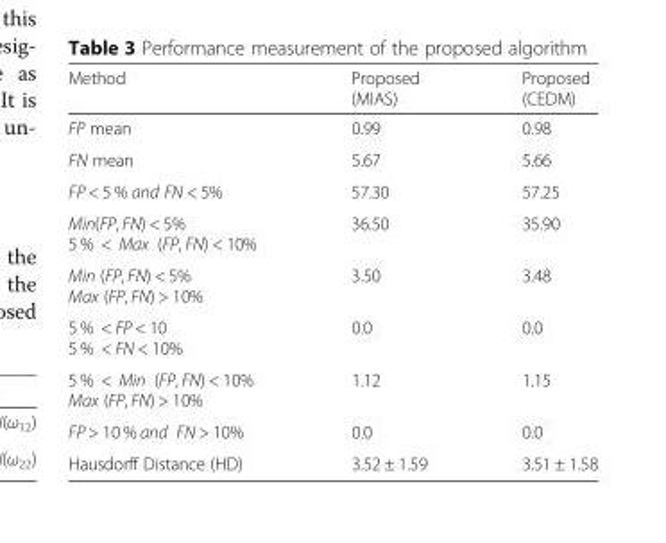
<table><thead><tr><td>Method</td><td>Proposed (MIAS)</td><td>Proposed (CEDM)</td></tr></thead><tbody><tr><td>FP mean</td><td>0.99</td><td>0.98</td></tr><tr><td>FN mean</td><td>5.67</td><td>5.66</td></tr><tr><td>FP &lt; 5 % and FN &lt; 5%</td><td>57.30</td><td>57.25</td></tr><tr><td>Min(FP, FN) &lt; 5% 5 % &lt; Max (FP, FN) &lt; 10%</td><td>36.50</td><td>35.90</td></tr><tr><td>Min (FP, FN) &lt; 5% Max (FP, FN) &gt; 10%</td><td>3.50</td><td>3.48</td></tr><tr><td>5 % &lt; FP &lt; 10 5 % &lt; FN &lt; 10%</td><td>0.0</td><td>0.0</td></tr><tr><td>5 % &lt; Min (FP, FN) &lt; 10% Max (FP, FN) &gt; 10%</td><td>1.12</td><td>1.15</td></tr><tr><td>FP &gt; 10 % and FN &gt; 10%</td><td>0.0</td><td>0.0</td></tr><tr><td>Hausdorff Distance (HD)</td><td>3.52 ± 1.59</td><td>3.51 ± 1.58</td></tr></tbody></table>